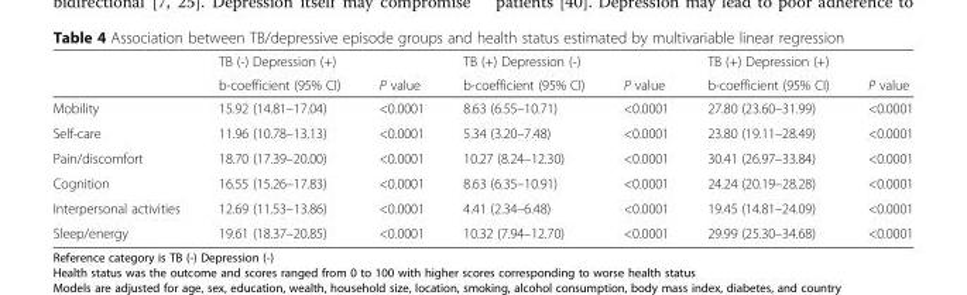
<table><thead><tr><td rowspan="2"></td><td rowspan="2">TB (-) Depression (+) b-coefficient (95% CI)</td><td rowspan="2">P value</td><td rowspan="2">TB (+) Depression (-) b-coefficient (95% CI)</td><td rowspan="2">P value</td><td rowspan="2">TB (+) Depression (+) b-coefficient (95% CI)</td><td rowspan="2">P value</td></tr><tr></tr></thead><tbody><tr><td>Mobility</td><td>15.92 (14.81–17.04)</td><td>&lt;0.0001</td><td>8.63 (6.55–10.71)</td><td>&lt;0.0001</td><td>27.80 (23.60–31.99)</td><td>&lt;0.0001</td></tr><tr><td>Self-care</td><td>11.96 (10.78–13.13)</td><td>&lt;0.0001</td><td>5.34 (3.20–7.48)</td><td>&lt;0.0001</td><td>23.80 (19.11–28.49)</td><td>&lt;0.0001</td></tr><tr><td>Pain/discomfort</td><td>18.70 (17.39–20.00)</td><td>&lt;0.0001</td><td>10.27 (8.24–12.30)</td><td>&lt;0.0001</td><td>30.41 (26.97–33.84)</td><td>&lt;0.0001</td></tr><tr><td>Cognition</td><td>16.55 (15.26–17.83)</td><td>&lt;0.0001</td><td>8.63 (6.35–10.91)</td><td>&lt;0.0001</td><td>24.24 (20.19–28.28)</td><td>&lt;0.0001</td></tr><tr><td>Interpersonal activities</td><td>12.69 (11.53–13.86)</td><td>&lt;0.0001</td><td>4.41 (2.34–6.48)</td><td>&lt;0.0001</td><td>19.45 (14.81–24.09)</td><td>&lt;0.0001</td></tr><tr><td>Sleep/energy</td><td>19.61 (18.37–20.85)</td><td>&lt;0.0001</td><td>10.32 (7.94–12.70)</td><td>&lt;0.0001</td><td>29.99 (25.30–34.68)</td><td>&lt;0.0001</td></tr></tbody></table>